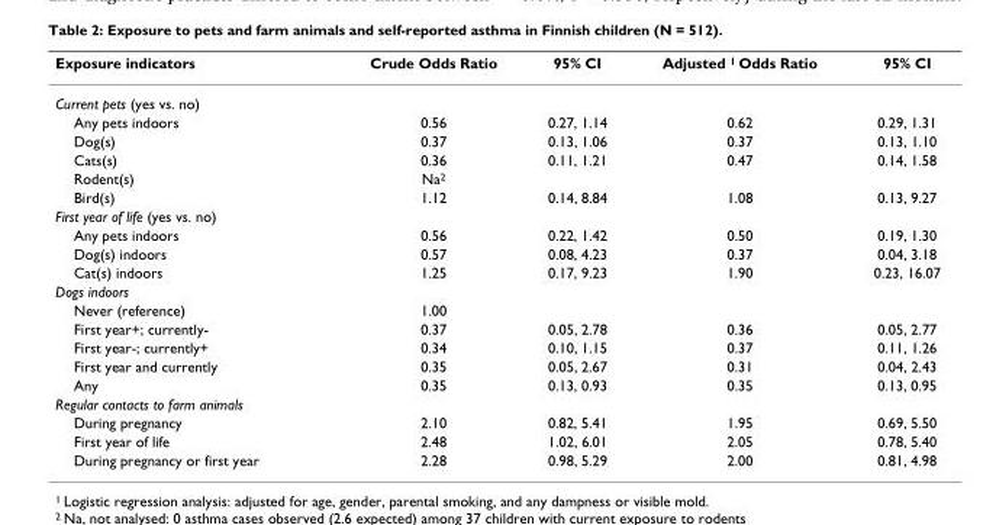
<table><thead><tr><td>Exposure indicators</td><td>Crude Odds Ratio</td><td>95% CI</td><td>Adjusted 1 Odds Ratio</td><td>95% CI</td></tr></thead><tbody><tr><td colspan="5">Current pets (yes vs. no)</td></tr><tr><td>Any pets indoors</td><td>0.56</td><td>0.27, 1.14</td><td>0.62</td><td>0.29, 1.31</td></tr><tr><td>Dog(s)</td><td>0.37</td><td>0.13, 1.06</td><td>0.37</td><td>0.13, 1.10</td></tr><tr><td>Cats(s)</td><td>0.36</td><td>0.11, 1.21</td><td>0.47</td><td>0.14, 1.58</td></tr><tr><td>Rodent(s)</td><td>Na<sup>2</sup></td><td></td><td></td><td></td></tr><tr><td>Bird(s)</td><td>1.12</td><td>0.14, 8.84</td><td>1.08</td><td>0.13, 9.27</td></tr><tr><td colspan="5">First year of life (yes vs. no)</td></tr><tr><td>Any pets indoors</td><td>0.56</td><td>0.22, 1.42</td><td>0.50</td><td>0.19, 1.30</td></tr><tr><td>Dog(s) indoors</td><td>0.57</td><td>0.08, 4.23</td><td>0.37</td><td>0.04, 3.18</td></tr><tr><td>Cat(s) indoors</td><td>1.25</td><td>0.17, 9.23</td><td>1.90</td><td>0.23, 16.07</td></tr><tr><td colspan="5">Dogs indoors</td></tr><tr><td>Never (reference)</td><td>1.00</td><td></td><td></td><td></td></tr><tr><td>First year+; currently-</td><td>0.37</td><td>0.05, 2.78</td><td>0.36</td><td>0.05, 2.77</td></tr><tr><td>First year-; currently+</td><td>0.34</td><td>0.10, 1.15</td><td>0.37</td><td>0.11, 1.26</td></tr><tr><td>First year and currently</td><td>0.35</td><td>0.05, 2.67</td><td>0.31</td><td>0.04, 2.43</td></tr><tr><td>Any</td><td>0.35</td><td>0.13, 0.93</td><td>0.35</td><td>0.13, 0.95</td></tr><tr><td colspan="5">Regular contacts to farm animals</td></tr><tr><td>During pregnancy</td><td>2.10</td><td>0.82, 5.41</td><td>1.95</td><td>0.69, 5.50</td></tr><tr><td>First year of life</td><td>2.48</td><td>1.02, 6.01</td><td>2.05</td><td>0.78, 5.40</td></tr><tr><td>During pregnancy or first year</td><td>2.28</td><td>0.98, 5.29</td><td>2.00</td><td>0.81, 4.98</td></tr></tbody></table>